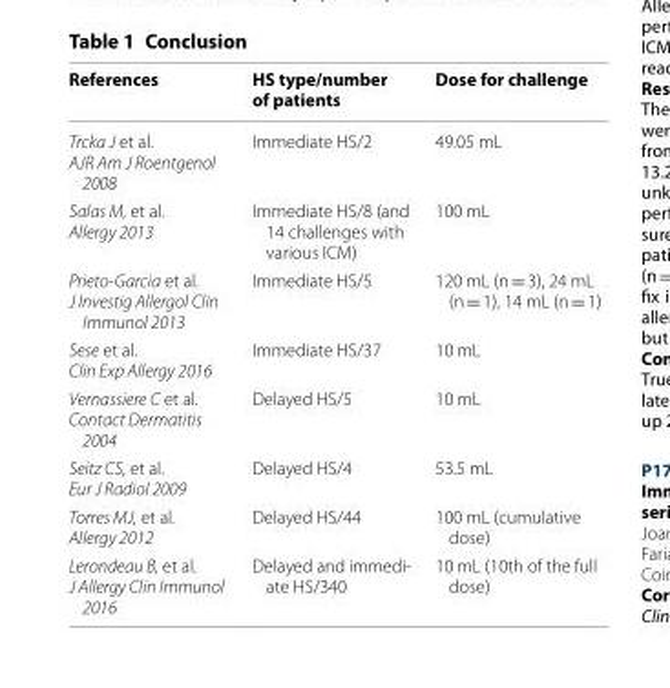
<table><thead><tr><td>References</td><td>HS type/number of patients</td><td>Dose for challenge</td></tr></thead><tbody><tr><td>Trcka J et al. AJR Am J Roentgenol 2008</td><td>Immediate HS/2</td><td>49.05 mL</td></tr><tr><td>Salas M, et al. Allergy 2013</td><td>Immediate HS/8 (and 14 challenges with various ICM)</td><td>100 mL</td></tr><tr><td>Prieto‑Garcia et al. J Investig Allergol Clin Immunol 2013</td><td>Immediate HS/5</td><td>120 mL (n = 3), 24 mL (n = 1), 14 mL (n = 1)</td></tr><tr><td>Sese et al. Clin Exp Allergy 2016</td><td>Immediate HS/37</td><td>10 mL</td></tr><tr><td>Vernassiere C et al. Contact Dermatitis 2004</td><td>Delayed HS/5</td><td>10 mL</td></tr><tr><td>Seitz CS, et al. Eur J Radiol 2009</td><td>Delayed HS/4</td><td>53.5 mL</td></tr><tr><td>Torres MJ, et al. Allergy 2012</td><td>Delayed HS/44</td><td>100 mL (cumulative dose)</td></tr><tr><td>Lerondeau B, et al. J Allergy Clin Immunol 2016</td><td>Delayed and immedi‑ ate HS/340</td><td>10 mL (10th of the full dose)</td></tr></tbody></table>